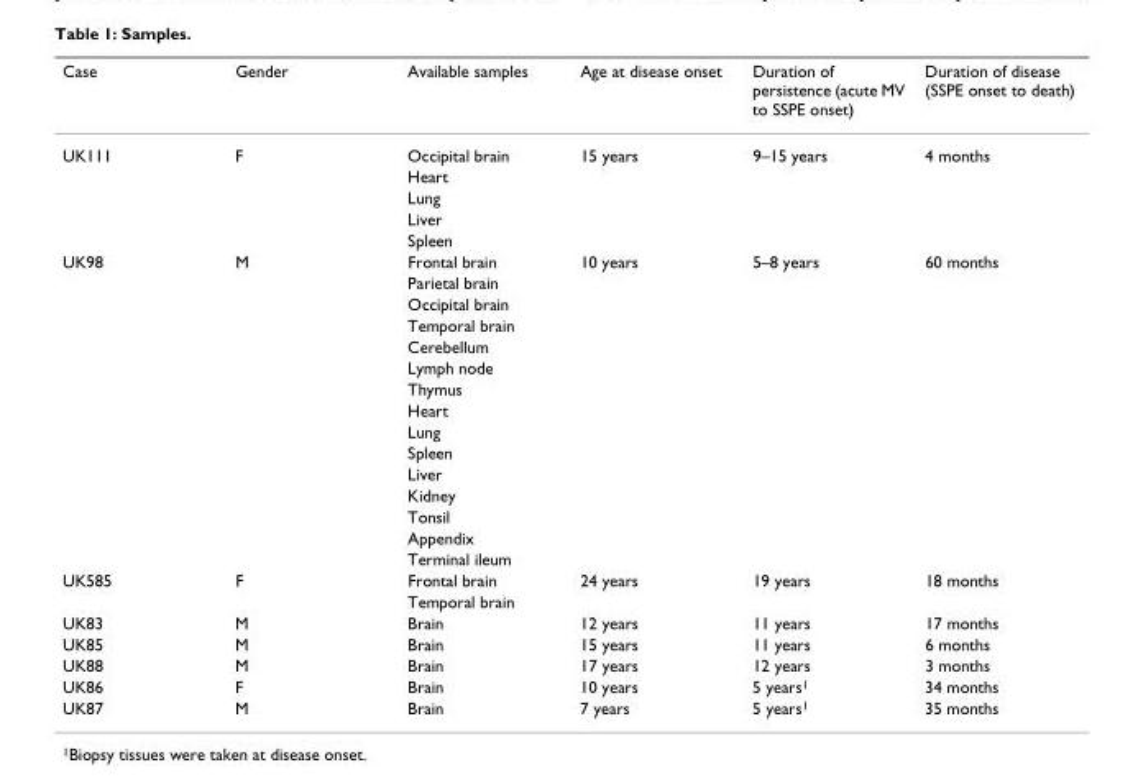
<table><thead><tr><td>Case</td><td>Gender</td><td>Available samples</td><td>Age at disease onset</td><td>Duration of persistence (acute MV to SSPE onset)</td><td>Duration of disease (SSPE onset to death)</td></tr></thead><tbody><tr><td rowspan="5">UK111</td><td>F</td><td>Occipital brain</td><td>15 years</td><td>9–15 years</td><td>4 months</td></tr><tr><td></td><td>Heart</td><td></td><td></td><td></td></tr><tr><td></td><td>Lung</td><td></td><td></td><td></td></tr><tr><td></td><td>Liver</td><td></td><td></td><td></td></tr><tr><td></td><td>Spleen</td><td></td><td></td><td></td></tr><tr><td rowspan="15">UK98</td><td>M</td><td>Frontal brain</td><td>10 years</td><td>5–8 years</td><td>60 months</td></tr><tr><td></td><td>Parietal brain</td><td></td><td></td><td></td></tr><tr><td></td><td>Occipital brain</td><td></td><td></td><td></td></tr><tr><td></td><td>Temporal brain</td><td></td><td></td><td></td></tr><tr><td></td><td>Cerebellum</td><td></td><td></td><td></td></tr><tr><td></td><td>Lymph node</td><td></td><td></td><td></td></tr><tr><td></td><td>Thymus</td><td></td><td></td><td></td></tr><tr><td></td><td>Heart</td><td></td><td></td><td></td></tr><tr><td></td><td>Lung</td><td></td><td></td><td></td></tr><tr><td></td><td>Spleen</td><td></td><td></td><td></td></tr><tr><td></td><td>Liver</td><td></td><td></td><td></td></tr><tr><td></td><td>Kidney</td><td></td><td></td><td></td></tr><tr><td></td><td>Tonsil</td><td></td><td></td><td></td></tr><tr><td></td><td>Appendix</td><td></td><td></td><td></td></tr><tr><td></td><td>Terminal ileum</td><td></td><td></td><td></td></tr><tr><td rowspan="2">UK585</td><td>F</td><td>Frontal brain</td><td>24 years</td><td>19 years</td><td>18 months</td></tr><tr><td></td><td>Temporal brain</td><td></td><td></td><td></td></tr><tr><td>UK83</td><td>M</td><td>Brain</td><td>12 years</td><td>11 years</td><td>17 months</td></tr><tr><td>UK85</td><td>M</td><td>Brain</td><td>15 years</td><td>11 years</td><td>6 months</td></tr><tr><td>UK88</td><td>M</td><td>Brain</td><td>17 years</td><td>12 years</td><td>3 months</td></tr><tr><td>UK86</td><td>F</td><td>Brain</td><td>10 years</td><td>5 years<sup>1</sup></td><td>34 months</td></tr><tr><td>UK87</td><td>M</td><td>Brain</td><td>7 years</td><td>5 years<sup>1</sup></td><td>35 months</td></tr></tbody></table>